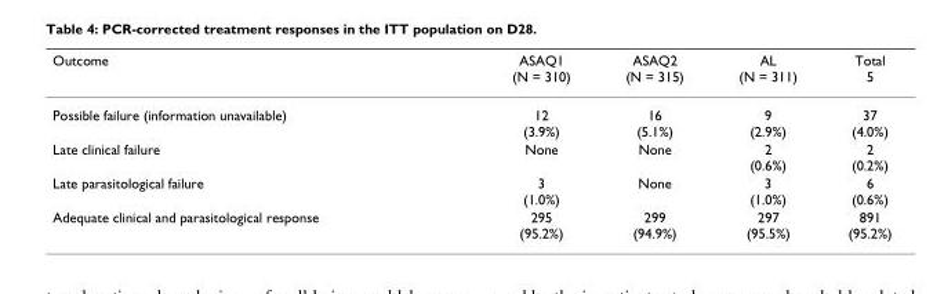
<table><thead><tr><td>Outcome</td><td>ASAQ1 (N = 310)</td><td>ASAQ2 (N = 315)</td><td>AL (N = 311)</td><td>Total 5</td></tr></thead><tbody><tr><td>Possible failure (information unavailable)</td><td>12 (3.9%)</td><td>16 (5.1%)</td><td>9 (2.9%)</td><td>37 (4.0%)</td></tr><tr><td>Late clinical failure</td><td>None</td><td>None</td><td>2 (0.6%)</td><td>2 (0.2%)</td></tr><tr><td>Late parasitological failure</td><td>3 (1.0%)</td><td>None</td><td>3 (1.0%)</td><td>6 (0.6%)</td></tr><tr><td>Adequate clinical and parasitological response</td><td>295 (95.2%)</td><td>299 (94.9%)</td><td>297 (95.5%)</td><td>891 (95.2%)</td></tr></tbody></table>